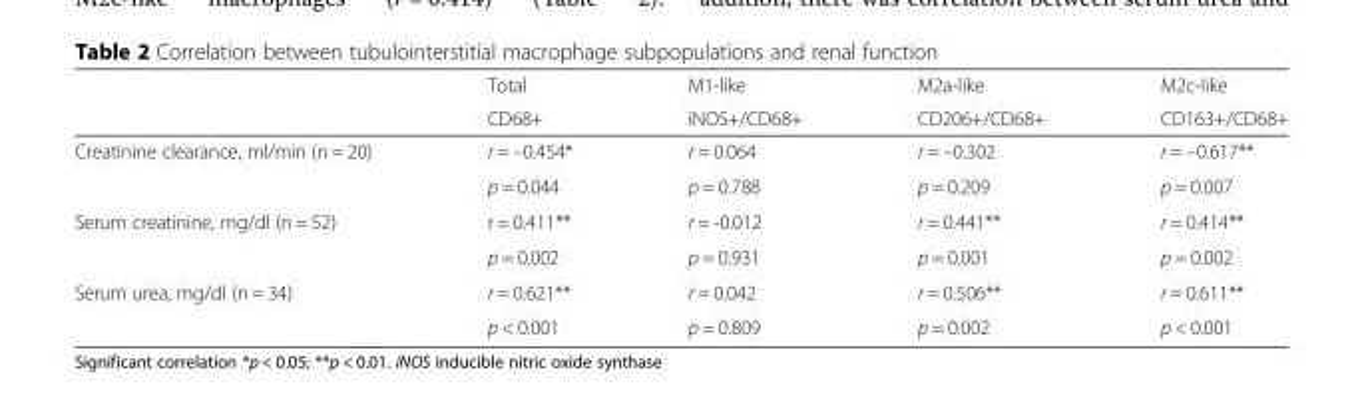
<table><thead><tr><td rowspan="2"></td><td rowspan="2">Total CD68+</td><td rowspan="2">M1-like iNOS+/CD68+</td><td rowspan="2">M2a-like CD206+/CD68+</td><td rowspan="2">M2c-like CD163+/CD68+</td></tr><tr></tr></thead><tbody><tr><td rowspan="2">Creatinine clearance, ml/min (n = 20)</td><td>r = –0.454*</td><td>r = 0.064</td><td>r = –0.302</td><td>r = –0.617**</td></tr><tr><td>p = 0.044</td><td>p = 0.788</td><td>p = 0.209</td><td>p = 0.007</td></tr><tr><td rowspan="2">Serum creatinine, mg/dl (n = 52)</td><td>r = 0.411**</td><td>r = -0.012</td><td>r = 0.441**</td><td>r = 0.414**</td></tr><tr><td>p = 0.002</td><td>p = 0.931</td><td>p = 0.001</td><td>p = 0.002</td></tr><tr><td rowspan="2">Serum urea, mg/dl (n = 34)</td><td>r = 0.621**</td><td>r = 0.042</td><td>r = 0.506**</td><td>r = 0.611**</td></tr><tr><td>p &lt; 0.001</td><td>p = 0.809</td><td>p = 0.002</td><td>p &lt; 0.001</td></tr></tbody></table>